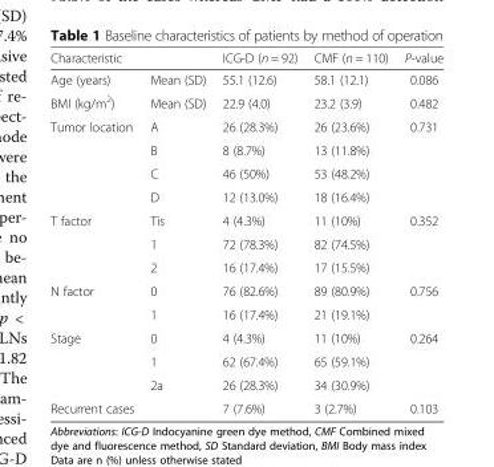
<table><thead><tr><td>Characteristic</td><td></td><td>ICG-D (n = 92)</td><td>CMF (n = 110)</td><td>P-value</td></tr></thead><tbody><tr><td>Age (years)</td><td>Mean (SD)</td><td>55.1 (12.6)</td><td>58.1 (12.1)</td><td>0.086</td></tr><tr><td>BMI (kg/m<sup>2</sup>)</td><td>Mean (SD)</td><td>22.9 (4.0)</td><td>23.2 (3.9)</td><td>0.482</td></tr><tr><td rowspan="4">Tumor location</td><td>A</td><td>26 (28.3%)</td><td>26 (23.6%)</td><td>0.731</td></tr><tr><td>B</td><td>8 (8.7%)</td><td>13 (11.8%)</td><td></td></tr><tr><td>C</td><td>46 (50%)</td><td>53 (48.2%)</td><td></td></tr><tr><td>D</td><td>12 (13.0%)</td><td>18 (16.4%)</td><td></td></tr><tr><td rowspan="3">T factor</td><td>Tis</td><td>4 (4.3%)</td><td>11 (10%)</td><td>0.352</td></tr><tr><td>1</td><td>72 (78.3%)</td><td>82 (74.5%)</td><td></td></tr><tr><td>2</td><td>16 (17.4%)</td><td>17 (15.5%)</td><td></td></tr><tr><td rowspan="2">N factor</td><td>0</td><td>76 (82.6%)</td><td>89 (80.9%)</td><td>0.756</td></tr><tr><td>1</td><td>16 (17.4%)</td><td>21 (19.1%)</td><td></td></tr><tr><td rowspan="3">Stage</td><td>0</td><td>4 (4.3%)</td><td>11 (10%)</td><td>0.264</td></tr><tr><td>1</td><td>62 (67.4%)</td><td>65 (59.1%)</td><td></td></tr><tr><td>2a</td><td>26 (28.3%)</td><td>34 (30.9%)</td><td></td></tr><tr><td>Recurrent cases</td><td></td><td>7 (7.6%)</td><td>3 (2.7%)</td><td>0.103</td></tr></tbody></table>